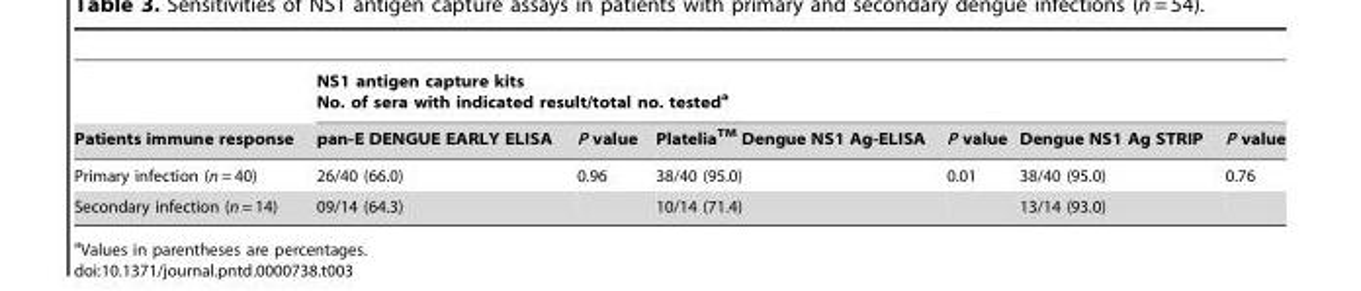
<table><thead><tr><td rowspan="2">Patients immune response</td><td colspan="6">NS1 antigen capture kits No. of sera with indicated result/total no. tested<sup>a</sup></td></tr><tr><td>pan-E DENGUE EARLY ELISA</td><td>P value</td><td>PlateliaTM Dengue NS1 Ag-ELISA</td><td>P value</td><td>Dengue NS1 Ag STRIP</td><td>P value</td></tr></thead><tbody><tr><td>Primary infection (n = 40)</td><td>26/40 (66.0)</td><td>0.96</td><td>38/40 (95.0)</td><td>0.01</td><td>38/40 (95.0)</td><td>0.76</td></tr><tr><td>Secondary infection (n = 14)</td><td>09/14 (64.3)</td><td></td><td>10/14 (71.4)</td><td></td><td>13/14 (93.0)</td><td></td></tr></tbody></table>